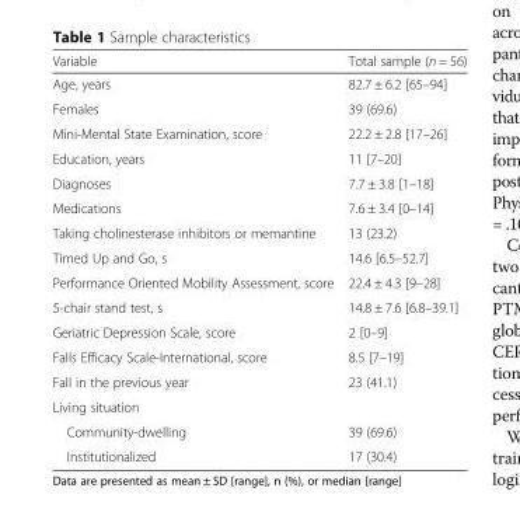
<table><thead><tr><td>Variable</td><td>Total sample (n = 56)</td></tr></thead><tbody><tr><td>Age, years</td><td>82.7 ± 6.2 [65–94]</td></tr><tr><td>Females</td><td>39 (69.6)</td></tr><tr><td>Mini-Mental State Examination, score</td><td>22.2 ± 2.8 [17–26]</td></tr><tr><td>Education, years</td><td>11 [7–20]</td></tr><tr><td>Diagnoses</td><td>7.7 ± 3.8 [1–18]</td></tr><tr><td>Medications</td><td>7.6 ± 3.4 [0–14]</td></tr><tr><td>Taking cholinesterase inhibitors or memantine</td><td>13 (23.2)</td></tr><tr><td>Timed Up and Go, s</td><td>14.6 [6.5–52.7]</td></tr><tr><td>Performance Oriented Mobility Assessment, score</td><td>22.4 ± 4.3 [9–28]</td></tr><tr><td>5-chair stand test, s</td><td>14.8 ± 7.6 [6.8–39.1]</td></tr><tr><td>Geriatric Depression Scale, score</td><td>2 [0–9]</td></tr><tr><td>Falls Efficacy Scale-International, score</td><td>8.5 [7–19]</td></tr><tr><td>Fall in the previous year</td><td>23 (41.1)</td></tr><tr><td colspan="2">Living situation</td></tr><tr><td>Community-dwelling</td><td>39 (69.6)</td></tr><tr><td>Institutionalized</td><td>17 (30.4)</td></tr></tbody></table>